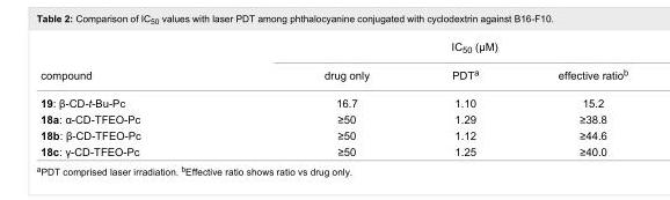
<table><thead><tr><td rowspan="2">compound</td><td colspan="3">IC<sub>50</sub> (μM)</td></tr><tr><td>drug only</td><td>PDT<sup>a</sup></td><td>effective ratio<sup>b</sup></td></tr></thead><tbody><tr><td>19: β-CD-t-Bu-Pc</td><td>16.7</td><td>1.10</td><td>15.2</td></tr><tr><td>18a: α-CD-TFEO-Pc</td><td>≥50</td><td>1.29</td><td>≥38.8</td></tr><tr><td>18b: β-CD-TFEO-Pc</td><td>≥50</td><td>1.12</td><td>≥44.6</td></tr><tr><td>18c: γ-CD-TFEO-Pc</td><td>≥50</td><td>1.25</td><td>≥40.0</td></tr></tbody></table>